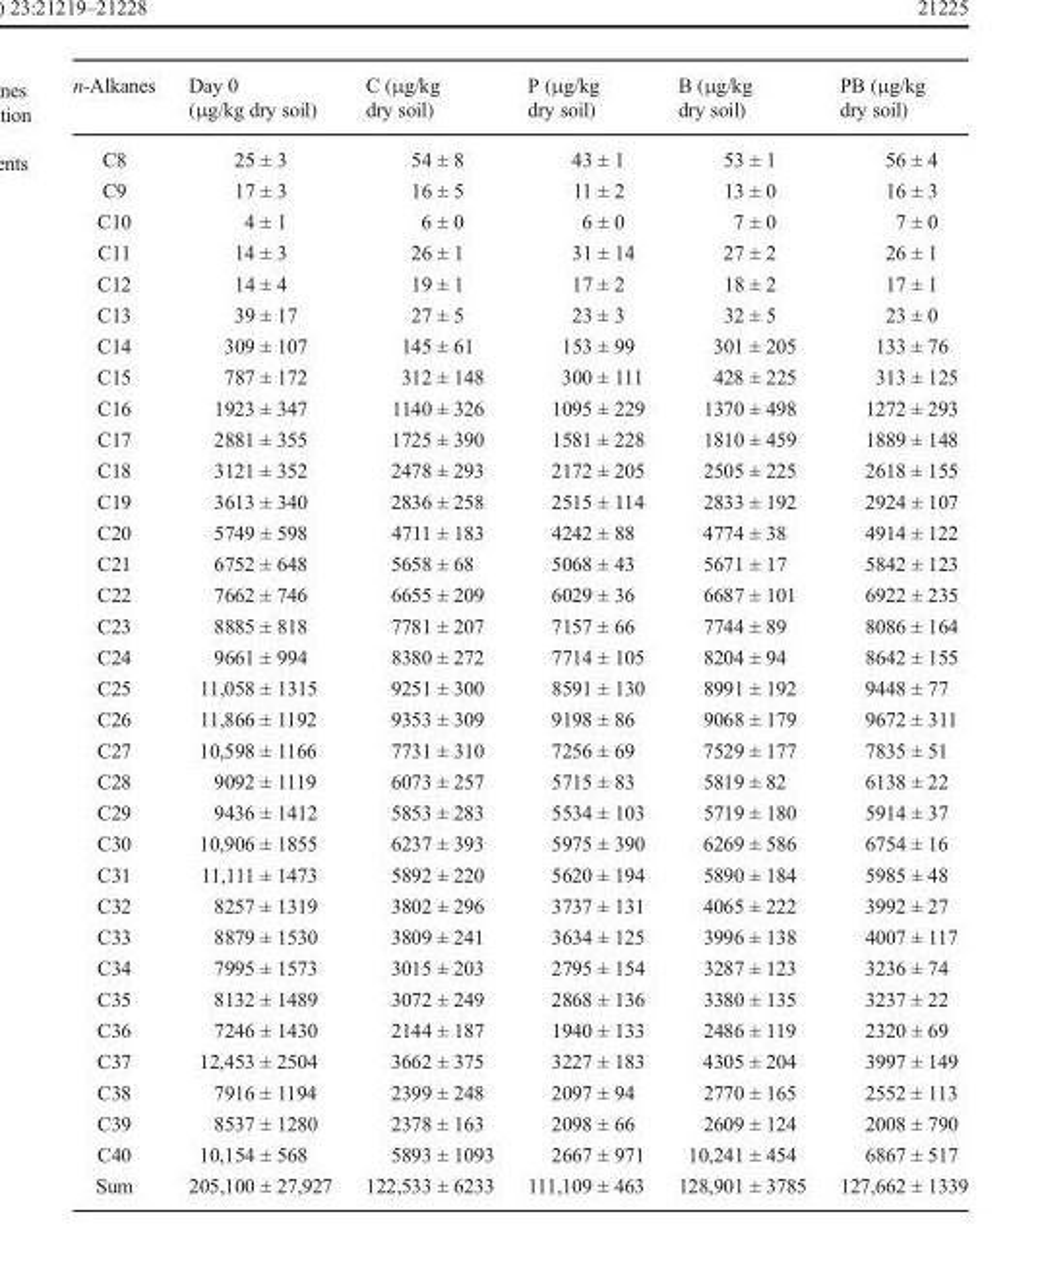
<table><thead><tr><td>n-Alkanes</td><td>Day 0 (μg/kg dry soil)</td><td>C (μg/kg dry soil)</td><td>P (μg/kg dry soil)</td><td>B (μg/kg dry soil)</td><td>PB (μg/kg dry soil)</td></tr></thead><tbody><tr><td>C8</td><td>25 ± 3</td><td>54 ± 8</td><td>43 ± 1</td><td>53 ± 1</td><td>56 ± 4</td></tr><tr><td>C9</td><td>17 ± 3</td><td>16 ± 5</td><td>11 ± 2</td><td>13 ± 0</td><td>16 ± 3</td></tr><tr><td>C10</td><td>4 ± 1</td><td>6 ± 0</td><td>6 ± 0</td><td>7 ± 0</td><td>7 ± 0</td></tr><tr><td>C11</td><td>14 ± 3</td><td>26 ± 1</td><td>31 ± 14</td><td>27 ± 2</td><td>26 ± 1</td></tr><tr><td>C12</td><td>14 ± 4</td><td>19 ± 1</td><td>17 ± 2</td><td>18 ± 2</td><td>17 ± 1</td></tr><tr><td>C13</td><td>39 ± 17</td><td>27 ± 5</td><td>23 ± 3</td><td>32 ± 5</td><td>23 ± 0</td></tr><tr><td>C14</td><td>309 ± 107</td><td>145 ± 61</td><td>153 ± 99</td><td>301 ± 205</td><td>133 ± 76</td></tr><tr><td>C15</td><td>787 ± 172</td><td>312 ± 148</td><td>300 ± 111</td><td>428 ± 225</td><td>313 ± 125</td></tr><tr><td>C16</td><td>1923 ± 347</td><td>1140 ± 326</td><td>1095 ± 229</td><td>1370 ± 498</td><td>1272 ± 293</td></tr><tr><td>C17</td><td>2881 ± 355</td><td>1725 ± 390</td><td>1581 ± 228</td><td>1810 ± 459</td><td>1889 ± 148</td></tr><tr><td>C18</td><td>3121 ± 352</td><td>2478 ± 293</td><td>2172 ± 205</td><td>2505 ± 225</td><td>2618 ± 155</td></tr><tr><td>C19</td><td>3613 ± 340</td><td>2836 ± 258</td><td>2515 ± 114</td><td>2833 ± 192</td><td>2924 ± 107</td></tr><tr><td>C20</td><td>5749 ± 598</td><td>4711 ± 183</td><td>4242 ± 88</td><td>4774 ± 38</td><td>4914 ± 122</td></tr><tr><td>C21</td><td>6752 ± 648</td><td>5658 ± 68</td><td>5068 ± 43</td><td>5671 ± 17</td><td>5842 ± 123</td></tr><tr><td>C22</td><td>7662 ± 746</td><td>6655 ± 209</td><td>6029 ± 36</td><td>6687 ± 101</td><td>6922 ± 235</td></tr><tr><td>C23</td><td>8885 ± 818</td><td>7781 ± 207</td><td>7157 ± 66</td><td>7744 ± 89</td><td>8086 ± 164</td></tr><tr><td>C24</td><td>9661 ± 994</td><td>8380 ± 272</td><td>7714 ± 105</td><td>8204 ± 94</td><td>8642 ± 155</td></tr><tr><td>C25</td><td>11,058 ± 1315</td><td>9251 ± 300</td><td>8591 ± 130</td><td>8991 ± 192</td><td>9448 ± 77</td></tr><tr><td>C26</td><td>11,866 ± 1192</td><td>9353 ± 309</td><td>9198 ± 86</td><td>9068 ± 179</td><td>9672 ± 311</td></tr><tr><td>C27</td><td>10,598 ± 1166</td><td>7731 ± 310</td><td>7256 ± 69</td><td>7529 ± 177</td><td>7835 ± 51</td></tr><tr><td>C28</td><td>9092 ± 1119</td><td>6073 ± 257</td><td>5715 ± 83</td><td>5819 ± 82</td><td>6138 ± 22</td></tr><tr><td>C29</td><td>9436 ± 1412</td><td>5853 ± 283</td><td>5534 ± 103</td><td>5719 ± 180</td><td>5914 ± 37</td></tr><tr><td>C30</td><td>10,906 ± 1855</td><td>6237 ± 393</td><td>5975 ± 390</td><td>6269 ± 586</td><td>6754 ± 16</td></tr><tr><td>C31</td><td>11,111 ± 1473</td><td>5892 ± 220</td><td>5620 ± 194</td><td>5890 ± 184</td><td>5985 ± 48</td></tr><tr><td>C32</td><td>8257 ± 1319</td><td>3802 ± 296</td><td>3737 ± 131</td><td>4065 ± 222</td><td>3992 ± 27</td></tr><tr><td>C33</td><td>8879 ± 1530</td><td>3809 ± 241</td><td>3634 ± 125</td><td>3996 ± 138</td><td>4007 ± 117</td></tr><tr><td>C34</td><td>7995 ± 1573</td><td>3015 ± 203</td><td>2795 ± 154</td><td>3287 ± 123</td><td>3236 ± 74</td></tr><tr><td>C35</td><td>8132 ± 1489</td><td>3072 ± 249</td><td>2868 ± 136</td><td>3380 ± 135</td><td>3237 ± 22</td></tr><tr><td>C36</td><td>7246 ± 1430</td><td>2144 ± 187</td><td>1940 ± 133</td><td>2486 ± 119</td><td>2320 ± 69</td></tr><tr><td>C37</td><td>12,453 ± 2504</td><td>3662 ± 375</td><td>3227 ± 183</td><td>4305 ± 204</td><td>3997 ± 149</td></tr><tr><td>C38</td><td>7916 ± 1194</td><td>2399 ± 248</td><td>2097 ± 94</td><td>2770 ± 165</td><td>2552 ± 113</td></tr><tr><td>C39</td><td>8537 ± 1280</td><td>2378 ± 163</td><td>2098 ± 66</td><td>2609 ± 124</td><td>2008 ± 790</td></tr><tr><td>C40</td><td>10,154 ± 568</td><td>5893 ± 1093</td><td>2667 ± 971</td><td>10,241 ± 454</td><td>6867 ± 517</td></tr><tr><td>Sum</td><td>205,100 ± 27,927</td><td>122,533 ± 6233</td><td>111,109 ± 463</td><td>128,901 ± 3785</td><td>127,662 ± 1339</td></tr></tbody></table>